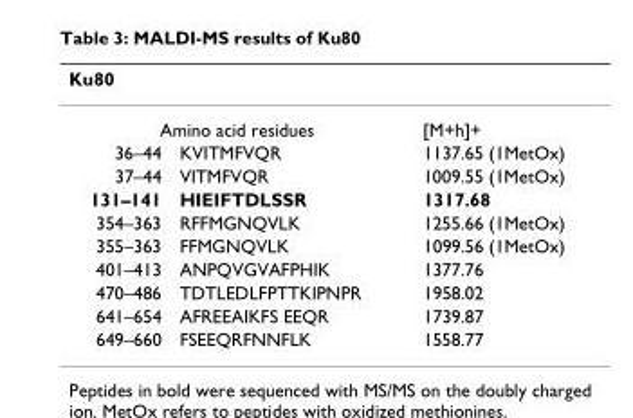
<table><thead><tr><td colspan="3">Ku80</td></tr><tr><td colspan="2">Amino acid residues</td><td rowspan="2">[M+h]+ 1137.65 (1MetOx)</td></tr><tr><td>36–44</td><td>KVITMFVQR</td></tr></thead><tbody><tr><td>37–44</td><td>VITMFVQR</td><td>1009.55 (1MetOx)</td></tr><tr><td>131–141</td><td>HIEIFTDLSSR</td><td>1317.68</td></tr><tr><td>354–363</td><td>RFFMGNQVLK</td><td>1255.66 (1MetOx)</td></tr><tr><td>355–363</td><td>FFMGNQVLK</td><td>1099.56 (1MetOx)</td></tr><tr><td>401–413</td><td>ANPQVGVAFPHIK</td><td>1377.76</td></tr><tr><td>470–486</td><td>TDTLEDLFPTTKIPNPR</td><td>1958.02</td></tr><tr><td>641–654</td><td>AFREEAIKFS EEQR</td><td>1739.87</td></tr><tr><td>649–660</td><td>FSEEQRFNNFLK</td><td>1558.77</td></tr></tbody></table>